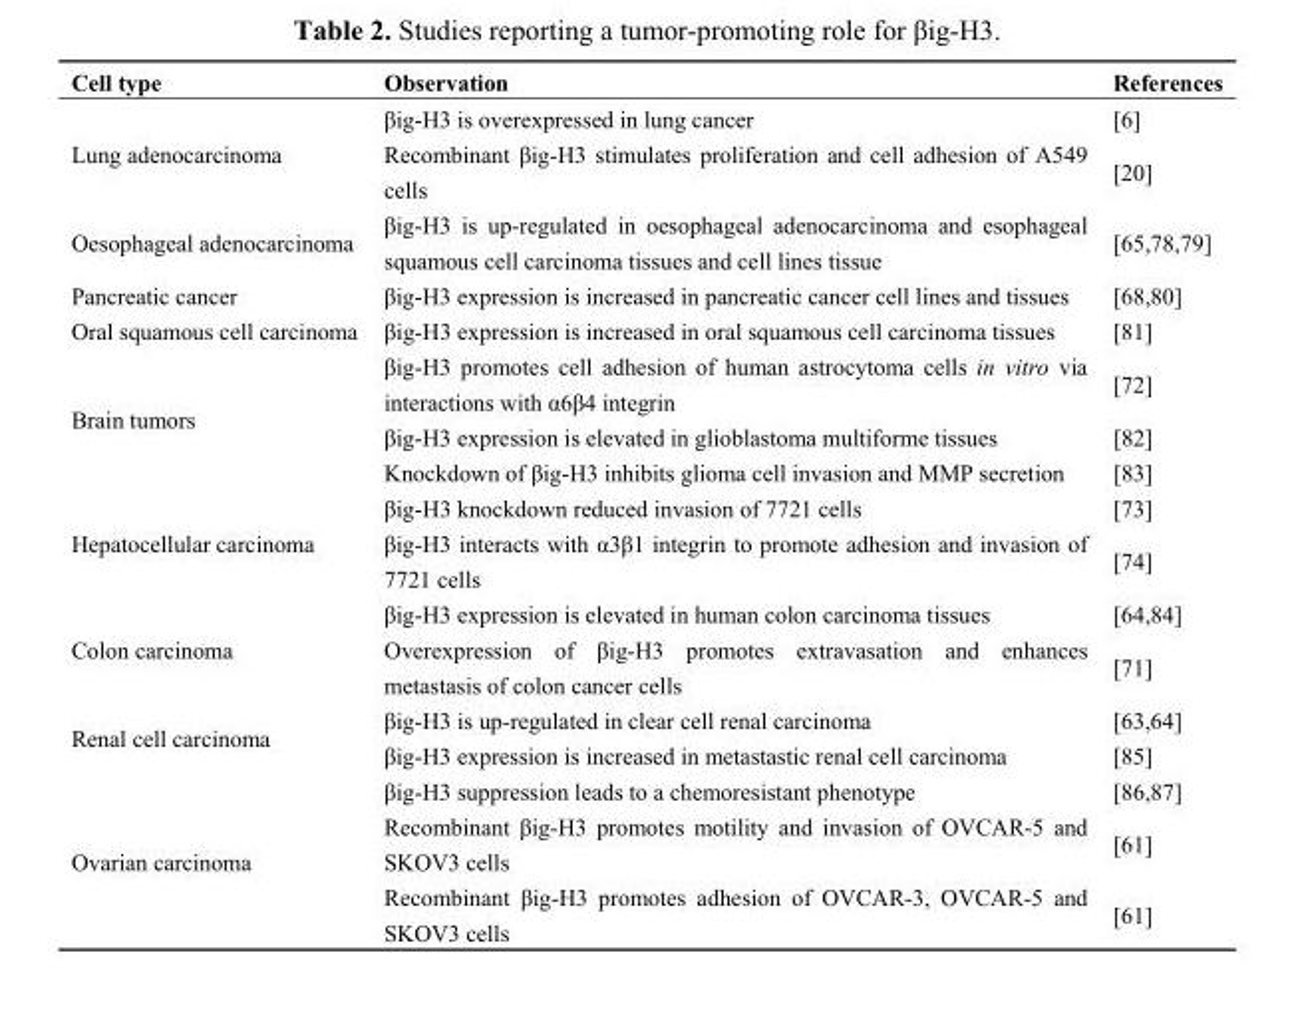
<table><thead><tr><td>Cell type</td><td>Observation</td><td>References</td></tr></thead><tbody><tr><td rowspan="2">Lung adenocarcinoma</td><td>βig-H3 is overexpressed in lung cancer</td><td>[6]</td></tr><tr><td>Recombinant βig-H3 stimulates proliferation and cell adhesion of A549 cells</td><td>[20]</td></tr><tr><td>Oesophageal adenocarcinoma</td><td>βig-H3 is up-regulated in oesophageal adenocarcinoma and esophageal squamous cell carcinoma tissues and cell lines tissue</td><td>[65,78,79]</td></tr><tr><td>Pancreatic cancer</td><td>βig-H3 expression is increased in pancreatic cancer cell lines and tissues</td><td>[68,80]</td></tr><tr><td>Oral squamous cell carcinoma</td><td>βig-H3 expression is increased in oral squamous cell carcinoma tissues</td><td>[81]</td></tr><tr><td rowspan="3">Brain tumors</td><td>βig-H3 promotes cell adhesion of human astrocytoma cells in vitro via interactions with α6β4 integrin</td><td>[72]</td></tr><tr><td>βig-H3 expression is elevated in glioblastoma multiforme tissues</td><td>[82]</td></tr><tr><td>Knockdown of βig-H3 inhibits glioma cell invasion and MMP secretion</td><td>[83]</td></tr><tr><td rowspan="2">Hepatocellular carcinoma</td><td>βig-H3 knockdown reduced invasion of 7721 cells</td><td>[73]</td></tr><tr><td>βig-H3 interacts with α3β1 integrin to promote adhesion and invasion of 7721 cells</td><td>[74]</td></tr><tr><td rowspan="2">Colon carcinoma</td><td>βig-H3 expression is elevated in human colon carcinoma tissues</td><td>[64,84]</td></tr><tr><td>Overexpression of βig-H3 promotes extravasation and enhances metastasis of colon cancer cells</td><td>[71]</td></tr><tr><td rowspan="2">Renal cell carcinoma</td><td>βig-H3 is up-regulated in clear cell renal carcinoma</td><td>[63,64]</td></tr><tr><td>βig-H3 expression is increased in metastastic renal cell carcinoma</td><td>[85]</td></tr><tr><td rowspan="3">Ovarian carcinoma</td><td>βig-H3 suppression leads to a chemoresistant phenotype</td><td>[86,87]</td></tr><tr><td>Recombinant βig-H3 promotes motility and invasion of OVCAR-5 and SKOV3 cells</td><td>[61]</td></tr><tr><td>Recombinant βig-H3 promotes adhesion of OVCAR-3, OVCAR-5 and SKOV3 cells</td><td>[61]</td></tr></tbody></table>